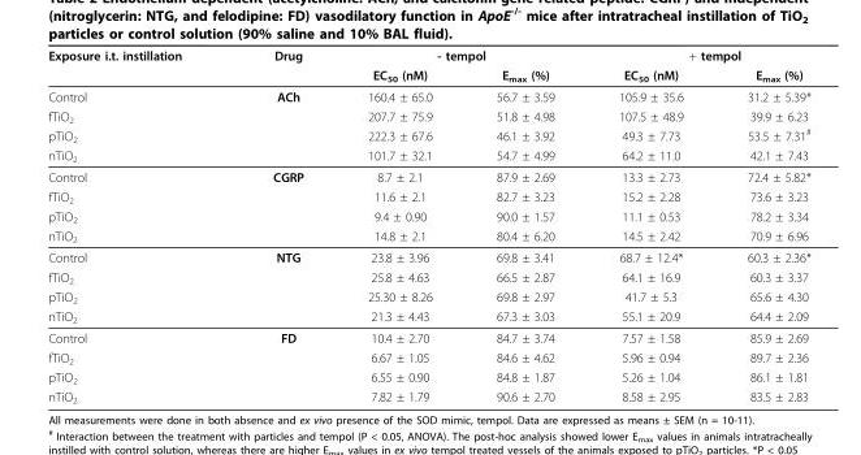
<table><thead><tr><td rowspan="2">Exposure i.t. instillation</td><td rowspan="2">Drug</td><td colspan="2">- tempol</td><td colspan="2">+ tempol</td></tr><tr><td>EC<sub>50</sub> (nM)</td><td>E<sub>max</sub> (%)</td><td>EC<sub>50</sub> (nM)</td><td>E<sub>max</sub> (%)</td></tr></thead><tbody><tr><td>Control</td><td>ACh</td><td>160.4 ± 65.0</td><td>56.7 ± 3.59</td><td>105.9 ± 35.6</td><td>31.2 ± 5.39*</td></tr><tr><td>fTiO<sub>2</sub></td><td></td><td>207.7 ± 75.9</td><td>51.8 ± 4.98</td><td>107.5 ± 48.9</td><td>39.9 ± 6.23</td></tr><tr><td>pTiO<sub>2</sub></td><td></td><td>222.3 ± 67.6</td><td>46.1 ± 3.92</td><td>49.3 ± 7.73</td><td>53.5 ± 7.31<sup>#</sup></td></tr><tr><td>nTiO<sub>2</sub></td><td></td><td>101.7 ± 32.1</td><td>54.7 ± 4.99</td><td>64.2 ± 11.0</td><td>42.1 ± 7.43</td></tr><tr><td>Control</td><td>CGRP</td><td>8.7 ± 2.1</td><td>87.9 ± 2.69</td><td>13.3 ± 2.73</td><td>72.4 ± 5.82*</td></tr><tr><td>fTiO<sub>2</sub></td><td></td><td>11.6 ± 2.1</td><td>82.7 ± 3.23</td><td>15.2 ± 2.28</td><td>73.6 ± 3.23</td></tr><tr><td>pTiO<sub>2</sub></td><td></td><td>9.4 ± 0.90</td><td>90.0 ± 1.57</td><td>11.1 ± 0.53</td><td>78.2 ± 3.34</td></tr><tr><td>nTiO<sub>2</sub></td><td></td><td>14.8 ± 2.1</td><td>80.4 ± 6.20</td><td>14.5 ± 2.42</td><td>70.9 ± 6.96</td></tr><tr><td>Control</td><td>NTG</td><td>23.8 ± 3.96</td><td>69.8 ± 3.41</td><td>68.7 ± 12.4*</td><td>60.3 ± 2.36*</td></tr><tr><td>fTiO<sub>2</sub></td><td></td><td>25.8 ± 4.63</td><td>66.5 ± 2.87</td><td>64.1 ± 16.9</td><td>60.3 ± 3.37</td></tr><tr><td>pTiO<sub>2</sub></td><td></td><td>25.30 ± 8.26</td><td>69.8 ± 2.97</td><td>41.7 ± 5.3</td><td>65.6 ± 4.30</td></tr><tr><td>nTiO<sub>2</sub></td><td></td><td>21.3 ± 4.43</td><td>67.3 ± 3.03</td><td>55.1 ± 20.9</td><td>64.4 ± 2.09</td></tr><tr><td>Control</td><td>FD</td><td>10.4 ± 2.70</td><td>84.7 ± 3.74</td><td>7.57 ± 1.58</td><td>85.9 ± 2.69</td></tr><tr><td>fTiO<sub>2</sub></td><td></td><td>6.67 ± 1.05</td><td>84.6 ± 4.62</td><td>5.96 ± 0.94</td><td>89.7 ± 2.36</td></tr><tr><td>pTiO<sub>2</sub></td><td></td><td>6.55 ± 0.90</td><td>84.8 ± 1.87</td><td>5.26 ± 1.04</td><td>86.1 ± 1.81</td></tr><tr><td>nTiO<sub>2</sub></td><td></td><td>7.82 ± 1.79</td><td>90.6 ± 2.70</td><td>8.58 ± 2.95</td><td>83.5 ± 2.83</td></tr></tbody></table>